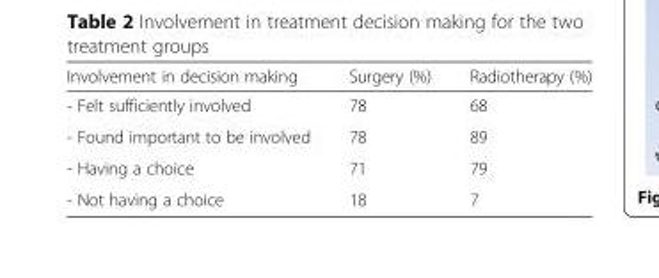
<table><thead><tr><td>Involvement in decision making</td><td>Surgery (%)</td><td>Radiotherapy (%)</td></tr></thead><tbody><tr><td>- Felt sufficiently involved</td><td>78</td><td>68</td></tr><tr><td>- Found important to be involved</td><td>78</td><td>89</td></tr><tr><td>- Having a choice</td><td>71</td><td>79</td></tr><tr><td>- Not having a choice</td><td>18</td><td>7</td></tr></tbody></table>